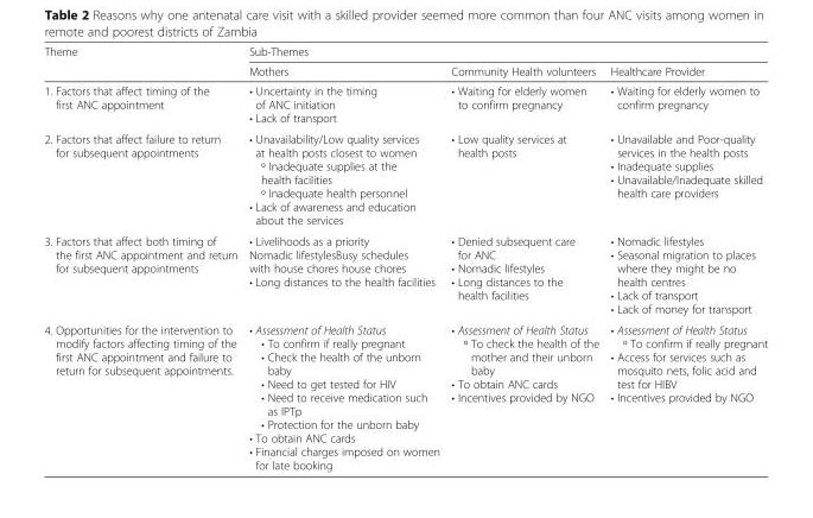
<table><thead><tr><td rowspan="2">Theme</td><td colspan="3">Sub-Themes</td></tr><tr><td>Mothers</td><td>Community Health volunteers</td><td>Healthcare Provider</td></tr></thead><tbody><tr><td>1. Factors that affect timing of the first ANC appointment</td><td>• Uncertainty in the timing of ANC initiation • Lack of transport</td><td>• Waiting for elderly women to confirm pregnancy</td><td>• Waiting for elderly women to confirm pregnancy</td></tr><tr><td>2. Factors that affect failure to return for subsequent appointments</td><td>• Unavailability/Low quality services at health posts closest to women º Inadequate supplies at the health facilities º Inadequate health personnel • Lack of awareness and education about the services</td><td>• Low quality services at health posts</td><td>• Unavailable and Poor-quality services in the health posts • Inadequate supplies • Unavailable/Inadequate skilled health care providers</td></tr><tr><td>3. Factors that affect both timing of the first ANC appointment and return for subsequent appointments</td><td>• Livelihoods as a priority Nomadic lifestylesBusy schedules with house chores house chores • Long distances to the health facilities</td><td>• Denied subsequent care for ANC • Nomadic lifestyles • Long distances to the health facilities</td><td>• Nomadic lifestyles • Seasonal migration to places where they might be no health centres • Lack of transport • Lack of money for transport</td></tr><tr><td>4. Opportunities for the intervention to modify factors affecting timing of the first ANC appointment and failure to return for subsequent appointments.</td><td>• Assessment of Health Status • To confirm if really pregnant • Check the health of the unborn baby • Need to get tested for HIV • Need to receive medication such as IPTp • Protection for the unborn baby • To obtain ANC cards • Financial charges imposed on women for late booking</td><td>• Assessment of Health Status º To check the health of the mother and their unborn baby • To obtain ANC cards • Incentives provided by NGO</td><td>• Assessment of Health Status º To confirm if really pregnant • Access for services such as mosquito nets, folic acid and test for HIBV • Incentives provided by NGO</td></tr></tbody></table>